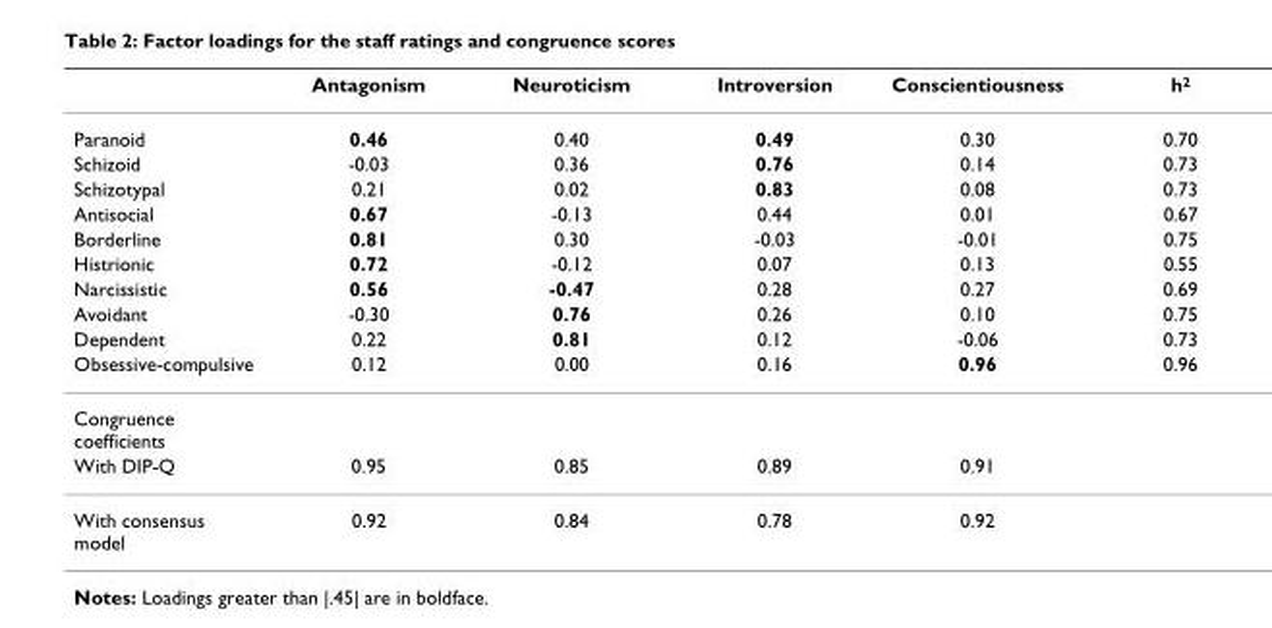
<table><thead><tr><td></td><td>Antagonism</td><td>Neuroticism</td><td>Introversion</td><td>Conscientiousness</td><td>h<sup>2</sup></td></tr></thead><tbody><tr><td>Paranoid</td><td>0.46</td><td>0.40</td><td>0.49</td><td>0.30</td><td>0.70</td></tr><tr><td>Schizoid</td><td>-0.03</td><td>0.36</td><td>0.76</td><td>0.14</td><td>0.73</td></tr><tr><td>Schizotypal</td><td>0.21</td><td>0.02</td><td>0.83</td><td>0.08</td><td>0.73</td></tr><tr><td>Antisocial</td><td>0.67</td><td>-0.13</td><td>0.44</td><td>0.01</td><td>0.67</td></tr><tr><td>Borderline</td><td>0.81</td><td>0.30</td><td>-0.03</td><td>-0.01</td><td>0.75</td></tr><tr><td>Histrionic</td><td>0.72</td><td>-0.12</td><td>0.07</td><td>0.13</td><td>0.55</td></tr><tr><td>Narcissistic</td><td>0.56</td><td>-0.47</td><td>0.28</td><td>0.27</td><td>0.69</td></tr><tr><td>Avoidant</td><td>-0.30</td><td>0.76</td><td>0.26</td><td>0.10</td><td>0.75</td></tr><tr><td>Dependent</td><td>0.22</td><td>0.81</td><td>0.12</td><td>-0.06</td><td>0.73</td></tr><tr><td>Obsessive-compulsive</td><td>0.12</td><td>0.00</td><td>0.16</td><td>0.96</td><td>0.96</td></tr><tr><td colspan="6">Congruence coefficients</td></tr><tr><td>With DIP-Q</td><td>0.95</td><td>0.85</td><td>0.89</td><td>0.91</td><td></td></tr><tr><td>With consensus model</td><td>0.92</td><td>0.84</td><td>0.78</td><td>0.92</td><td></td></tr></tbody></table>